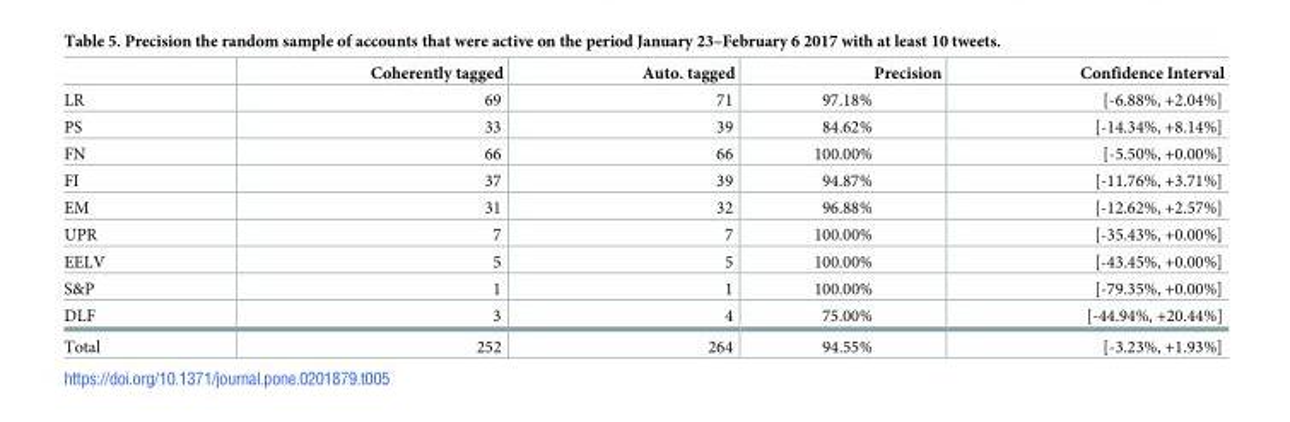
<table><thead><tr><td></td><td>Coherently tagged</td><td>Auto. tagged</td><td>Precision</td><td>Confidence Interval</td></tr></thead><tbody><tr><td>LR</td><td>69</td><td>71</td><td>97.18%</td><td>[-6.88%, +2.04%]</td></tr><tr><td>PS</td><td>33</td><td>39</td><td>84.62%</td><td>[-14.34%, +8.14%]</td></tr><tr><td>FN</td><td>66</td><td>66</td><td>100.00%</td><td>[-5.50%, +0.00%]</td></tr><tr><td>FI</td><td>37</td><td>39</td><td>94.87%</td><td>[-11.76%, +3.71%]</td></tr><tr><td>EM</td><td>31</td><td>32</td><td>96.88%</td><td>[-12.62%, +2.57%]</td></tr><tr><td>UPR</td><td>7</td><td>7</td><td>100.00%</td><td>[-35.43%, +0.00%]</td></tr><tr><td>EELV</td><td>5</td><td>5</td><td>100.00%</td><td>[-43.45%, +0.00%]</td></tr><tr><td>S&amp;P</td><td>1</td><td>1</td><td>100.00%</td><td>[-79.35%, +0.00%]</td></tr><tr><td>DLF</td><td>3</td><td>4</td><td>75.00%</td><td>[-44.94%, +20.44%]</td></tr><tr><td>Total</td><td>252</td><td>264</td><td>94.55%</td><td>[-3.23%, +1.93%]</td></tr></tbody></table>